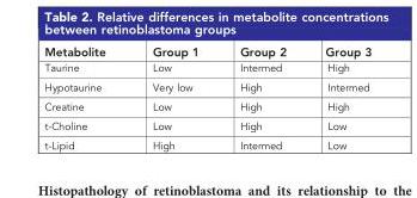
<table><thead><tr><td>Metabolite</td><td>Group 1</td><td>Group 2</td><td>Group 3</td></tr></thead><tbody><tr><td>Taurine</td><td>Low</td><td>Intermed</td><td>High</td></tr><tr><td>Hypotaurine</td><td>Very low</td><td>High</td><td>Intermed</td></tr><tr><td>Creatine</td><td>Low</td><td>High</td><td>High</td></tr><tr><td>t-Choline</td><td>Low</td><td>High</td><td>Low</td></tr><tr><td>t-Lipid</td><td>High</td><td>Intermed</td><td>Low</td></tr></tbody></table>